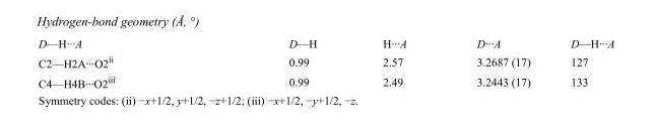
<table><tbody><tr><td>D—H···A</td><td>D—H</td><td>H···A</td><td>D···A</td><td>D—H···A</td></tr><tr><td>C2—H2A···O2<sup>ii</sup></td><td>0.99</td><td>2.57</td><td>3.2687 (17)</td><td>127</td></tr><tr><td>C4—H4B···O2<sup>iii</sup></td><td>0.99</td><td>2.49</td><td>3.2443 (17)</td><td>133</td></tr></tbody></table>